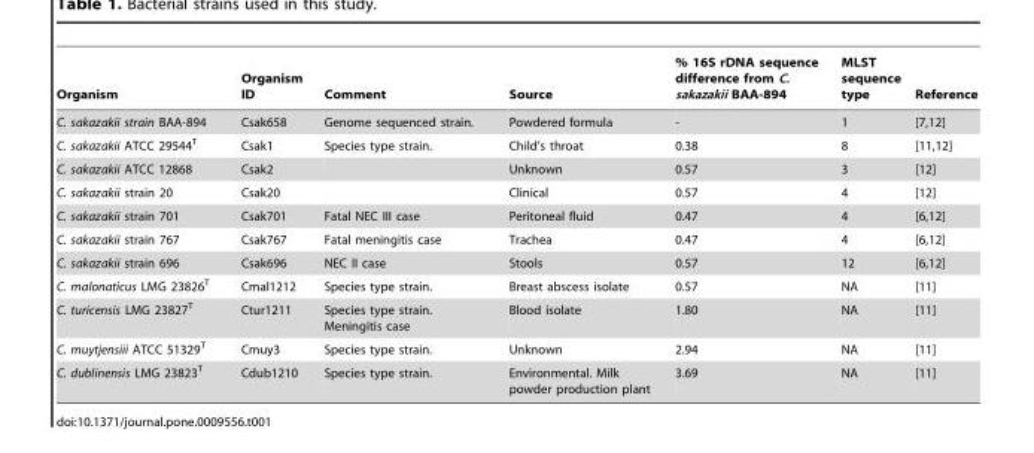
<table><thead><tr><td>Organism</td><td>Organism ID</td><td>Comment</td><td>Source</td><td>% 16S rDNA sequence difference from C. sakazakii BAA-894</td><td>MLST sequence type</td><td>Reference</td></tr></thead><tbody><tr><td>C. sakazakii strain BAA-894</td><td>Csak658</td><td>Genome sequenced strain.</td><td>Powdered formula</td><td>-</td><td>1</td><td>[7,12]</td></tr><tr><td>C. sakazakii ATCC 29544<sup>T</sup></td><td>Csak1</td><td>Species type strain.</td><td>Child’s throat</td><td>0.38</td><td>8</td><td>[11,12]</td></tr><tr><td>C. sakazakii ATCC 12868</td><td>Csak2</td><td></td><td>Unknown</td><td>0.57</td><td>3</td><td>[12]</td></tr><tr><td>C. sakazakii strain 20</td><td>Csak20</td><td></td><td>Clinical</td><td>0.57</td><td>4</td><td>[12]</td></tr><tr><td>C. sakazakii strain 701</td><td>Csak701</td><td>Fatal NEC III case</td><td>Peritoneal fluid</td><td>0.47</td><td>4</td><td>[6,12]</td></tr><tr><td>C. sakazakii strain 767</td><td>Csak767</td><td>Fatal meningitis case</td><td>Trachea</td><td>0.47</td><td>4</td><td>[6,12]</td></tr><tr><td>C. sakazakii strain 696</td><td>Csak696</td><td>NEC II case</td><td>Stools</td><td>0.57</td><td>12</td><td>[6,12]</td></tr><tr><td>C. malonaticus LMG 23826<sup>T</sup></td><td>Cmal1212</td><td>Species type strain.</td><td>Breast abscess isolate</td><td>0.57</td><td>NA</td><td>[11]</td></tr><tr><td>C. turicensis LMG 23827<sup>T</sup></td><td>Ctur1211</td><td>Species type strain. Meningitis case</td><td>Blood isolate</td><td>1.80</td><td>NA</td><td>[11]</td></tr><tr><td>C. muytjensiii ATCC 51329<sup>T</sup></td><td>Cmuy3</td><td>Species type strain.</td><td>Unknown</td><td>2.94</td><td>NA</td><td>[11]</td></tr><tr><td>C. dublinensis LMG 23823<sup>T</sup></td><td>Cdub1210</td><td>Species type strain.</td><td>Environmental. Milk powder production plant</td><td>3.69</td><td>NA</td><td>[11]</td></tr></tbody></table>